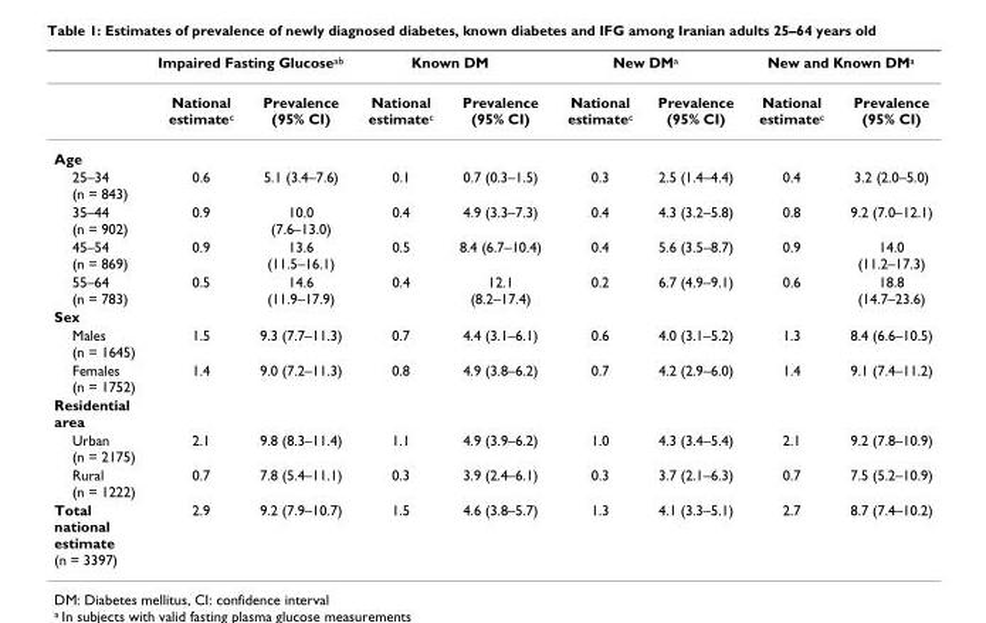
<table><thead><tr><td rowspan="2"></td><td colspan="2">Impaired Fasting Glucose<sup>ab</sup></td><td colspan="2">Known DM</td><td colspan="2">New DM<sup>a</sup></td><td colspan="2">New and Known DM<sup>a</sup></td></tr><tr><td>National estimate<sup>c</sup></td><td>Prevalence (95% CI)</td><td>National estimate<sup>c</sup></td><td>Prevalence (95% CI)</td><td>National estimate<sup>c</sup></td><td>Prevalence (95% CI)</td><td>National estimate<sup>c</sup></td><td>Prevalence (95% CI)</td></tr></thead><tbody><tr><td colspan="9">Age</td></tr><tr><td>25–34 (n = 843)</td><td>0.6</td><td>5.1 (3.4–7.6)</td><td>0.1</td><td>0.7 (0.3–1.5)</td><td>0.3</td><td>2.5 (1.4–4.4)</td><td>0.4</td><td>3.2 (2.0–5.0)</td></tr><tr><td>35–44 (n = 902)</td><td>0.9</td><td>10.0 (7.6–13.0)</td><td>0.4</td><td>4.9 (3.3–7.3)</td><td>0.4</td><td>4.3 (3.2–5.8)</td><td>0.8</td><td>9.2 (7.0–12.1)</td></tr><tr><td>45–54 (n = 869)</td><td>0.9</td><td>13.6 (11.5–16.1)</td><td>0.5</td><td>8.4 (6.7–10.4)</td><td>0.4</td><td>5.6 (3.5–8.7)</td><td>0.9</td><td>14.0 (11.2–17.3)</td></tr><tr><td>55–64 (n = 783)</td><td>0.5</td><td>14.6 (11.9–17.9)</td><td>0.4</td><td>12.1 (8.2–17.4)</td><td>0.2</td><td>6.7 (4.9–9.1)</td><td>0.6</td><td>18.8 (14.7–23.6)</td></tr><tr><td colspan="9">Sex</td></tr><tr><td>Males (n = 1645)</td><td>1.5</td><td>9.3 (7.7–11.3)</td><td>0.7</td><td>4.4 (3.1–6.1)</td><td>0.6</td><td>4.0 (3.1–5.2)</td><td>1.3</td><td>8.4 (6.6–10.5)</td></tr><tr><td>Females (n = 1752)</td><td>1.4</td><td>9.0 (7.2–11.3)</td><td>0.8</td><td>4.9 (3.8–6.2)</td><td>0.7</td><td>4.2 (2.9–6.0)</td><td>1.4</td><td>9.1 (7.4–11.2)</td></tr><tr><td colspan="9">Residential area</td></tr><tr><td>Urban (n = 2175)</td><td>2.1</td><td>9.8 (8.3–11.4)</td><td>1.1</td><td>4.9 (3.9–6.2)</td><td>1.0</td><td>4.3 (3.4–5.4)</td><td>2.1</td><td>9.2 (7.8–10.9)</td></tr><tr><td>Rural (n = 1222)</td><td>0.7</td><td>7.8 (5.4–11.1)</td><td>0.3</td><td>3.9 (2.4–6.1)</td><td>0.3</td><td>3.7 (2.1–6.3)</td><td>0.7</td><td>7.5 (5.2–10.9)</td></tr><tr><td>Total national estimate (n = 3397)</td><td>2.9</td><td>9.2 (7.9–10.7)</td><td>1.5</td><td>4.6 (3.8–5.7)</td><td>1.3</td><td>4.1 (3.3–5.1)</td><td>2.7</td><td>8.7 (7.4–10.2)</td></tr></tbody></table>